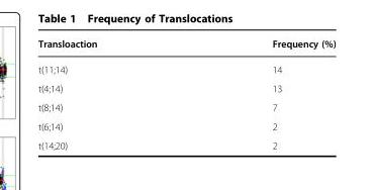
<table><thead><tr><td>Transloaction</td><td>Frequency (%)</td></tr></thead><tbody><tr><td>t(11;14)</td><td>14</td></tr><tr><td>t(4;14)</td><td>13</td></tr><tr><td>t(8;14)</td><td>7</td></tr><tr><td>t(6;14)</td><td>2</td></tr><tr><td>t(14;20)</td><td>2</td></tr></tbody></table>